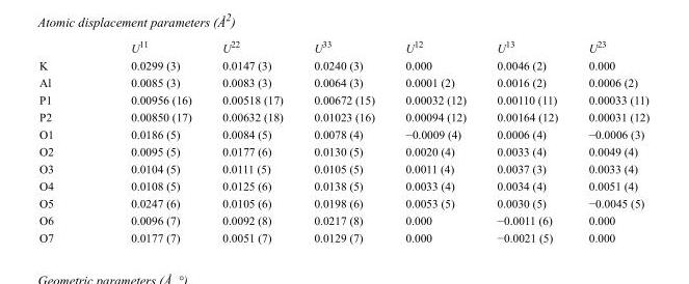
<table><thead><tr><td></td><td>U<sup>11</sup></td><td>U<sup>22</sup></td><td>U<sup>33</sup></td><td>U<sup>12</sup></td><td>U<sup>13</sup></td><td>U<sup>23</sup></td></tr></thead><tbody><tr><td>K</td><td>0.0299 (3)</td><td>0.0147 (3)</td><td>0.0240 (3)</td><td>0.000</td><td>0.0046 (2)</td><td>0.000</td></tr><tr><td>Al</td><td>0.0085 (3)</td><td>0.0083 (3)</td><td>0.0064 (3)</td><td>0.0001 (2)</td><td>0.0016 (2)</td><td>0.0006 (2)</td></tr><tr><td>P1</td><td>0.00956 (16)</td><td>0.00518 (17)</td><td>0.00672 (15)</td><td>0.00032 (12)</td><td>0.00110 (11)</td><td>0.00033 (11)</td></tr><tr><td>P2</td><td>0.00850 (17)</td><td>0.00632 (18)</td><td>0.01023 (16)</td><td>0.00094 (12)</td><td>0.00164 (12)</td><td>0.00031 (12)</td></tr><tr><td>O1</td><td>0.0186 (5)</td><td>0.0084 (5)</td><td>0.0078 (4)</td><td>−0.0009 (4)</td><td>0.0006 (4)</td><td>−0.0006 (3)</td></tr><tr><td>O2</td><td>0.0095 (5)</td><td>0.0177 (6)</td><td>0.0130 (5)</td><td>0.0020 (4)</td><td>0.0033 (4)</td><td>0.0049 (4)</td></tr><tr><td>O3</td><td>0.0104 (5)</td><td>0.0111 (5)</td><td>0.0105 (5)</td><td>0.0011 (4)</td><td>0.0037 (3)</td><td>0.0033 (4)</td></tr><tr><td>O4</td><td>0.0108 (5)</td><td>0.0125 (6)</td><td>0.0138 (5)</td><td>0.0033 (4)</td><td>0.0034 (4)</td><td>0.0051 (4)</td></tr><tr><td>O5</td><td>0.0247 (6)</td><td>0.0105 (6)</td><td>0.0198 (6)</td><td>0.0053 (5)</td><td>0.0030 (5)</td><td>−0.0045 (5)</td></tr><tr><td>O6</td><td>0.0096 (7)</td><td>0.0092 (8)</td><td>0.0217 (8)</td><td>0.000</td><td>−0.0011 (6)</td><td>0.000</td></tr><tr><td>O7</td><td>0.0177 (7)</td><td>0.0051 (7)</td><td>0.0129 (7)</td><td>0.000</td><td>−0.0021 (5)</td><td>0.000</td></tr></tbody></table>